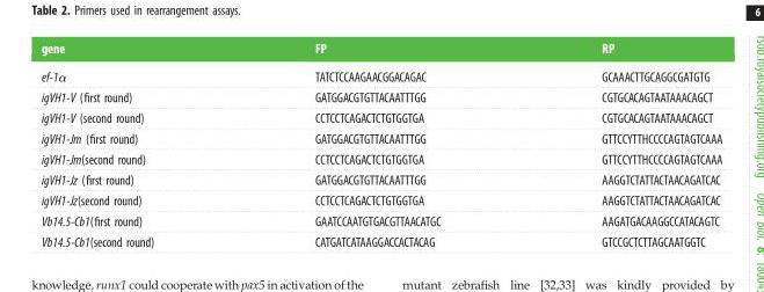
<table><thead><tr><td>gene</td><td>FP</td><td>RP</td></tr></thead><tbody><tr><td>ef-1α</td><td>TATCTCCAAGAACGGACAGAC</td><td>GCAAACTTGCAGGCGATGTG</td></tr><tr><td>igVH1-V (first round)</td><td>GATGGACGTGTTACAATTTGG</td><td>CGTGCACAGTAATAAACAGCT</td></tr><tr><td>igVH1-V (second round)</td><td>CCTCCTCAGACTCTGTGGTGA</td><td>CGTGCACAGTAATAAACAGCT</td></tr><tr><td>igVH1-Jm (first round)</td><td>GATGGACGTGTTACAATTTGG</td><td>GTTCCYTTHCCCCAGTAGTCAAA</td></tr><tr><td>igVH1-Jm(second round)</td><td>CCTCCTCAGACTCTGTGGTGA</td><td>GTTCCYTTHCCCCAGTAGTCAAA</td></tr><tr><td>igVH1-Jz (first round)</td><td>GATGGACGTGTTACAATTTGG</td><td>AAGGTCTATTACTAACAGATCAC</td></tr><tr><td>igVH1-Jz(second round)</td><td>CCTCCTCAGACTCTGTGGTGA</td><td>AAGGTCTATTACTAACAGATCAC</td></tr><tr><td>Vb14.5-Cb1(first round)</td><td>GAATCCAATGTGACGTTAACATGC</td><td>AAGATGACAAGGCCATACAGTC</td></tr><tr><td>Vb14.5-Cb1(second round)</td><td>CATGATCATAAGGACCACTACAG</td><td>GTCCGCTCTTAGCAATGGTC</td></tr></tbody></table>